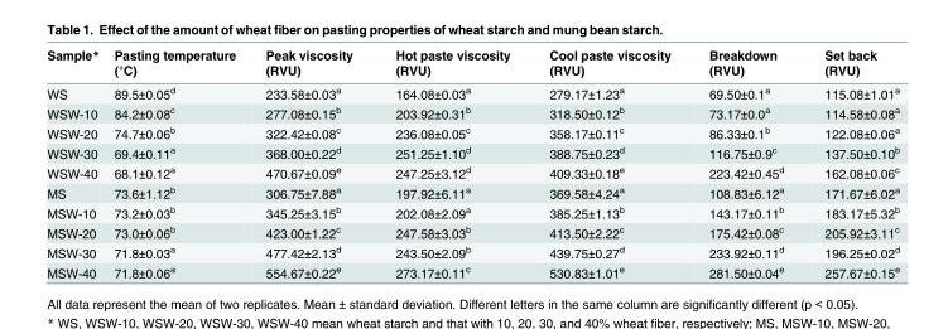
<table><thead><tr><td>Sample*</td><td>Pasting temperature (°C)</td><td>Peak viscosity (RVU)</td><td>Hot paste viscosity (RVU)</td><td>Cool paste viscosity (RVU)</td><td>Breakdown (RVU)</td><td>Set back (RVU)</td></tr></thead><tbody><tr><td>WS</td><td>89.5±0.05<sup>d</sup></td><td>233.58±0.03<sup>a</sup></td><td>164.08±0.03<sup>a</sup></td><td>279.17±1.23<sup>a</sup></td><td>69.50±0.1<sup>a</sup></td><td>115.08±1.01<sup>a</sup></td></tr><tr><td>WSW-10</td><td>84.2±0.08<sup>c</sup></td><td>277.08±0.15<sup>b</sup></td><td>203.92±0.31<sup>b</sup></td><td>318.50±0.12<sup>b</sup></td><td>73.17±0.0<sup>a</sup></td><td>114.58±0.08<sup>a</sup></td></tr><tr><td>WSW-20</td><td>74.7±0.06<sup>b</sup></td><td>322.42±0.08<sup>c</sup></td><td>236.08±0.05<sup>c</sup></td><td>358.17±0.11<sup>c</sup></td><td>86.33±0.1<sup>b</sup></td><td>122.08±0.06<sup>a</sup></td></tr><tr><td>WSW-30</td><td>69.4±0.11<sup>a</sup></td><td>368.00±0.22<sup>d</sup></td><td>251.25±1.10<sup>d</sup></td><td>388.75±0.23<sup>d</sup></td><td>116.75±0.9<sup>c</sup></td><td>137.50±0.10<sup>b</sup></td></tr><tr><td>WSW-40</td><td>68.1±0.12<sup>a</sup></td><td>470.67±0.09<sup>e</sup></td><td>247.25±3.12<sup>d</sup></td><td>409.33±0.18<sup>e</sup></td><td>223.42±0.45<sup>d</sup></td><td>162.08±0.06<sup>c</sup></td></tr><tr><td>MS</td><td>73.6±1.12<sup>b</sup></td><td>306.75±7.88<sup>a</sup></td><td>197.92±6.11<sup>a</sup></td><td>369.58±4.24<sup>a</sup></td><td>108.83±6.12<sup>a</sup></td><td>171.67±6.02<sup>a</sup></td></tr><tr><td>MSW-10</td><td>73.2±0.03<sup>b</sup></td><td>345.25±3.15<sup>b</sup></td><td>202.08±2.09<sup>a</sup></td><td>385.25±1.13<sup>b</sup></td><td>143.17±0.11<sup>b</sup></td><td>183.17±5.32<sup>b</sup></td></tr><tr><td>MSW-20</td><td>73.0±0.06<sup>b</sup></td><td>423.00±1.22<sup>c</sup></td><td>247.58±3.03<sup>b</sup></td><td>413.50±2.22<sup>c</sup></td><td>175.42±0.08<sup>c</sup></td><td>205.92±3.11<sup>c</sup></td></tr><tr><td>MSW-30</td><td>71.8±0.03<sup>a</sup></td><td>477.42±2.13<sup>d</sup></td><td>243.50±2.09<sup>b</sup></td><td>439.75±0.27<sup>d</sup></td><td>233.92±0.11<sup>d</sup></td><td>196.25±0.02<sup>d</sup></td></tr><tr><td>MSW-40</td><td>71.8±0.06<sup>a</sup></td><td>554.67±0.22<sup>e</sup></td><td>273.17±0.11<sup>c</sup></td><td>530.83±1.01<sup>e</sup></td><td>281.50±0.04<sup>e</sup></td><td>257.67±0.15<sup>e</sup></td></tr></tbody></table>